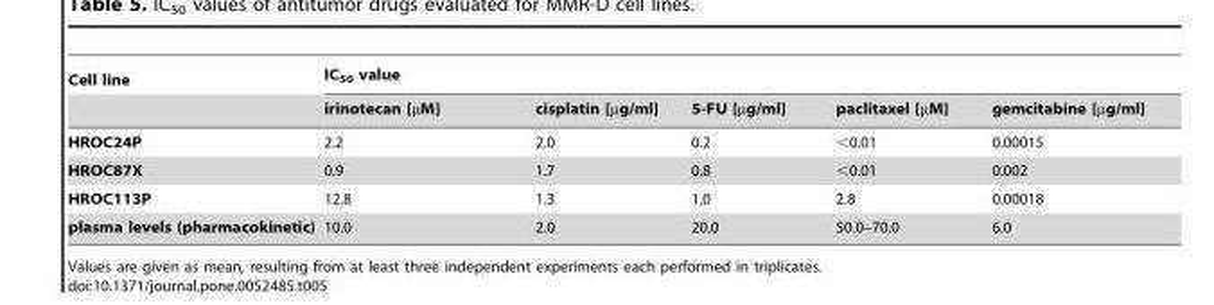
<table><thead><tr><td rowspan="2">Cell line</td><td colspan="5">IC<sub>50</sub> value</td></tr><tr><td>irinotecan [µM]</td><td>cisplatin [µg/ml]</td><td>5-FU [µg/ml]</td><td>paclitaxel [µM]</td><td>gemcitabine [µg/ml]</td></tr></thead><tbody><tr><td>HROC24P</td><td>2.2</td><td>2.0</td><td>0.2</td><td>&lt;0.01</td><td>0.00015</td></tr><tr><td>HROC87X</td><td>0.9</td><td>1.7</td><td>0.8</td><td>&lt;0.01</td><td>0.002</td></tr><tr><td>HROC113P</td><td>12.8</td><td>1.3</td><td>1.0</td><td>2.8</td><td>0.00018</td></tr><tr><td>plasma levels (pharmacokinetic)</td><td>10.0</td><td>2.0</td><td>20.0</td><td>50.0–70.0</td><td>6.0</td></tr></tbody></table>